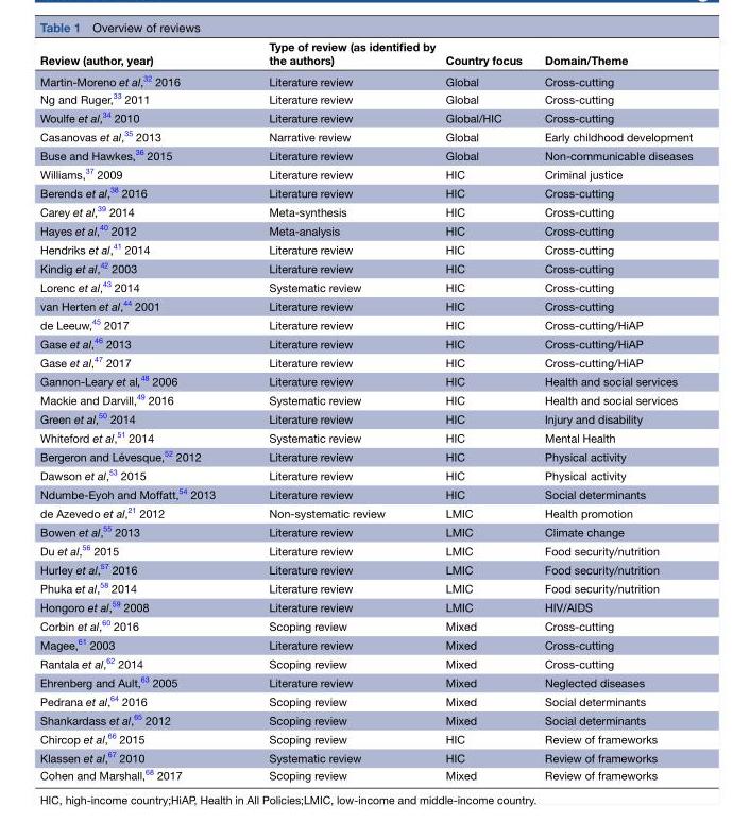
<table><thead><tr><td>Review (author, year)</td><td>Type of review (as identified by the authors)</td><td>Country focus</td><td>Domain/Theme</td></tr></thead><tbody><tr><td>Martin-Moreno et al,<sup>32</sup> 2016</td><td>Literature review</td><td>Global</td><td>Cross-cutting</td></tr><tr><td>Ng and Ruger,<sup>33</sup> 2011</td><td>Literature review</td><td>Global</td><td>Cross-cutting</td></tr><tr><td>Woulfe et al,<sup>34</sup> 2010</td><td>Literature review</td><td>Global/HIC</td><td>Cross-cutting</td></tr><tr><td>Casanovas et al,<sup>35</sup> 2013</td><td>Narrative review</td><td>Global</td><td>Early childhood development</td></tr><tr><td>Buse and Hawkes,<sup>36</sup> 2015</td><td>Literature review</td><td>Global</td><td>Non-communicable diseases</td></tr><tr><td>Williams,<sup>37</sup> 2009</td><td>Literature review</td><td>HIC</td><td>Criminal justice</td></tr><tr><td>Berends et al,<sup>38</sup> 2016</td><td>Literature review</td><td>HIC</td><td>Cross-cutting</td></tr><tr><td>Carey et al,<sup>39</sup> 2014</td><td>Meta-synthesis</td><td>HIC</td><td>Cross-cutting</td></tr><tr><td>Hayes et al,<sup>40</sup> 2012</td><td>Meta-analysis</td><td>HIC</td><td>Cross-cutting</td></tr><tr><td>Hendriks et al,<sup>41</sup> 2014</td><td>Literature review</td><td>HIC</td><td>Cross-cutting</td></tr><tr><td>Kindig et al,<sup>42</sup> 2003</td><td>Literature review</td><td>HIC</td><td>Cross-cutting</td></tr><tr><td>Lorenc et al,<sup>43</sup> 2014</td><td>Systematic review</td><td>HIC</td><td>Cross-cutting</td></tr><tr><td>van Herten et al,<sup>44</sup> 2001</td><td>Literature review</td><td>HIC</td><td>Cross-cutting</td></tr><tr><td>de Leeuw,<sup>45</sup> 2017</td><td>Literature review</td><td>HIC</td><td>Cross-cutting/HiAP</td></tr><tr><td>Gase et al,<sup>46</sup> 2013</td><td>Literature review</td><td>HIC</td><td>Cross-cutting/HiAP</td></tr><tr><td>Gase et al,<sup>47</sup> 2017</td><td>Literature review</td><td>HIC</td><td>Cross-cutting/HiAP</td></tr><tr><td>Gannon-Leary et al,<sup>48</sup> 2006</td><td>Literature review</td><td>HIC</td><td>Health and social services</td></tr><tr><td>Mackie and Darvill,<sup>49</sup> 2016</td><td>Systematic review</td><td>HIC</td><td>Health and social services</td></tr><tr><td>Green et al,<sup>50</sup> 2014</td><td>Literature review</td><td>HIC</td><td>Injury and disability</td></tr><tr><td>Whiteford et al,<sup>51</sup> 2014</td><td>Systematic review</td><td>HIC</td><td>Mental Health</td></tr><tr><td>Bergeron and Lévesque,<sup>52</sup> 2012</td><td>Literature review</td><td>HIC</td><td>Physical activity</td></tr><tr><td>Dawson et al,<sup>53</sup> 2015</td><td>Literature review</td><td>HIC</td><td>Physical activity</td></tr><tr><td>Ndumbe-Eyoh and Moffatt,<sup>54</sup> 2013</td><td>Literature review</td><td>HIC</td><td>Social determinants</td></tr><tr><td>de Azevedo et al,<sup>21</sup> 2012</td><td>Non-systematic review</td><td>LMIC</td><td>Health promotion</td></tr><tr><td>Bowen et al,<sup>55</sup> 2013</td><td>Literature review</td><td>LMIC</td><td>Climate change</td></tr><tr><td>Du et al,<sup>56</sup> 2015</td><td>Literature review</td><td>LMIC</td><td>Food security/nutrition</td></tr><tr><td>Hurley et al,<sup>57</sup> 2016</td><td>Literature review</td><td>LMIC</td><td>Food security/nutrition</td></tr><tr><td>Phuka et al,<sup>58</sup> 2014</td><td>Literature review</td><td>LMIC</td><td>Food security/nutrition</td></tr><tr><td>Hongoro et al,<sup>59</sup> 2008</td><td>Literature review</td><td>LMIC</td><td>HIV/AIDS</td></tr><tr><td>Corbin et al,<sup>60</sup> 2016</td><td>Scoping review</td><td>Mixed</td><td>Cross-cutting</td></tr><tr><td>Magee,<sup>61</sup> 2003</td><td>Literature review</td><td>Mixed</td><td>Cross-cutting</td></tr><tr><td>Rantala et al,<sup>62</sup> 2014</td><td>Scoping review</td><td>Mixed</td><td>Cross-cutting</td></tr><tr><td>Ehrenberg and Ault,<sup>63</sup> 2005</td><td>Literature review</td><td>Mixed</td><td>Neglected diseases</td></tr><tr><td>Pedrana et al,<sup>64</sup> 2016</td><td>Scoping review</td><td>Mixed</td><td>Social determinants</td></tr><tr><td>Shankardass et al,<sup>65</sup> 2012</td><td>Scoping review</td><td>Mixed</td><td>Social determinants</td></tr><tr><td>Chircop et al,<sup>66</sup> 2015</td><td>Scoping review</td><td>HIC</td><td>Review of frameworks</td></tr><tr><td>Klassen et al,<sup>67</sup> 2010</td><td>Systematic review</td><td>HIC</td><td>Review of frameworks</td></tr><tr><td>Cohen and Marshall,<sup>68</sup> 2017</td><td>Scoping review</td><td>Mixed</td><td>Review of frameworks</td></tr></tbody></table>